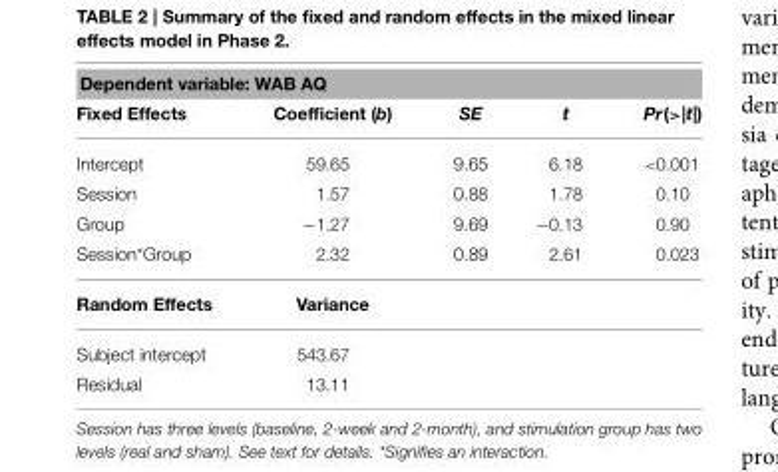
<table><thead><tr><td colspan="5">Dependent variable: WAB AQ</td></tr><tr><td>Fixed Effects</td><td>Coefficient (b)</td><td>SE</td><td>t</td><td>Pr(&gt;|t|)</td></tr></thead><tbody><tr><td>Intercept</td><td>59.65</td><td>9.65</td><td>6.18</td><td>&lt;0.001</td></tr><tr><td>Session</td><td>1.57</td><td>0.88</td><td>1.78</td><td>0.10</td></tr><tr><td>Group</td><td>−1.27</td><td>9.69</td><td>−0.13</td><td>0.90</td></tr><tr><td>Session*Group</td><td>2.32</td><td>0.89</td><td>2.61</td><td>0.023</td></tr><tr><td>Random Effects</td><td colspan="4">Variance</td></tr><tr><td>Subject intercept</td><td colspan="4">543.67</td></tr><tr><td>Residual</td><td colspan="4">13.11</td></tr></tbody></table>